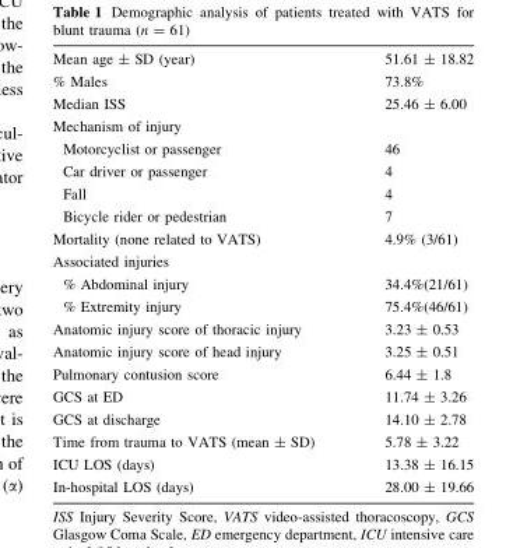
<table><tbody><tr><td>Mean age ± SD (year)</td><td>51.61 ± 18.82</td></tr><tr><td>% Males</td><td>73.8%</td></tr><tr><td>Median ISS</td><td>25.46 ± 6.00</td></tr><tr><td colspan="2">Mechanism of injury</td></tr><tr><td>Motorcyclist or passenger</td><td>46</td></tr><tr><td>Car driver or passenger</td><td>4</td></tr><tr><td>Fall</td><td>4</td></tr><tr><td>Bicycle rider or pedestrian</td><td>7</td></tr><tr><td>Mortality (none related to VATS)</td><td>4.9% (3/61)</td></tr><tr><td colspan="2">Associated injuries</td></tr><tr><td>% Abdominal injury</td><td>34.4%(21/61)</td></tr><tr><td>% Extremity injury</td><td>75.4%(46/61)</td></tr><tr><td>Anatomic injury score of thoracic injury</td><td>3.23 ± 0.53</td></tr><tr><td>Anatomic injury score of head injury</td><td>3.25 ± 0.51</td></tr><tr><td>Pulmonary contusion score</td><td>6.44 ± 1.8</td></tr><tr><td>GCS at ED</td><td>11.74 ± 3.26</td></tr><tr><td>GCS at discharge</td><td>14.10 ± 2.78</td></tr><tr><td>Time from trauma to VATS (mean ± SD)</td><td>5.78 ± 3.22</td></tr><tr><td>ICU LOS (days)</td><td>13.38 ± 16.15</td></tr><tr><td>In-hospital LOS (days)</td><td>28.00 ± 19.66</td></tr></tbody></table>